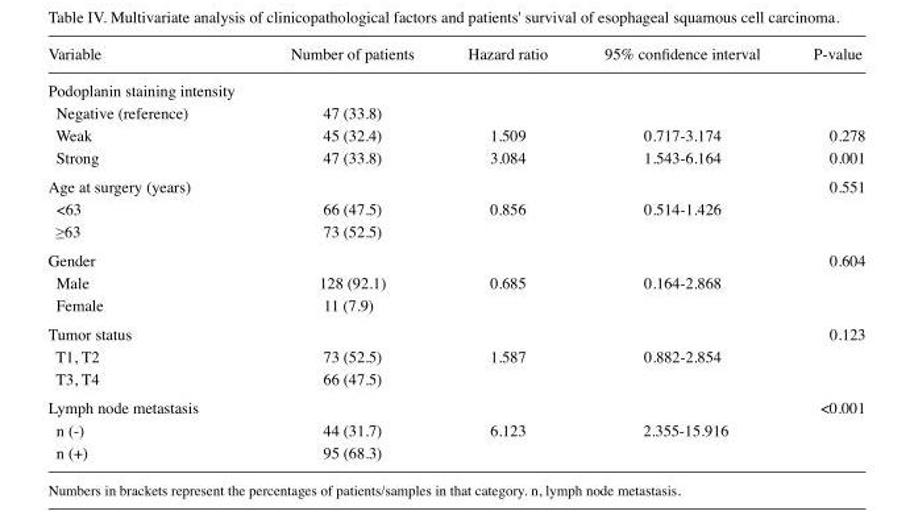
<table><thead><tr><td>Variable</td><td>Number of patients</td><td>Hazard ratio</td><td>95% confidence interval</td><td>P‑value</td></tr></thead><tbody><tr><td colspan="5">Podoplanin staining intensity</td></tr><tr><td>Negative (reference)</td><td>47 (33.8)</td><td></td><td></td><td></td></tr><tr><td>Weak</td><td>45 (32.4)</td><td>1.509</td><td>0.717‑3.174</td><td>0.278</td></tr><tr><td>Strong</td><td>47 (33.8)</td><td>3.084</td><td>1.543‑6.164</td><td>0.001</td></tr><tr><td>Age at surgery (years)</td><td></td><td></td><td></td><td>0.551</td></tr><tr><td>&lt;63</td><td>66 (47.5)</td><td>0.856</td><td>0.514‑1.426</td><td></td></tr><tr><td>≥63</td><td>73 (52.5)</td><td></td><td></td><td></td></tr><tr><td>Gender</td><td></td><td></td><td></td><td>0.604</td></tr><tr><td>Male</td><td>128 (92.1)</td><td>0.685</td><td>0.164‑2.868</td><td></td></tr><tr><td>Female</td><td>11 (7.9)</td><td></td><td></td><td></td></tr><tr><td>Tumor status</td><td></td><td></td><td></td><td>0.123</td></tr><tr><td>T1, T2</td><td>73 (52.5)</td><td>1.587</td><td>0.882‑2.854</td><td></td></tr><tr><td>T3, T4</td><td>66 (47.5)</td><td></td><td></td><td></td></tr><tr><td>Lymph node metastasis</td><td></td><td></td><td></td><td>&lt;0.001</td></tr><tr><td>n (‑)</td><td>44 (31.7)</td><td>6.123</td><td>2.355‑15.916</td><td></td></tr><tr><td>n (+)</td><td>95 (68.3)</td><td></td><td></td><td></td></tr></tbody></table>